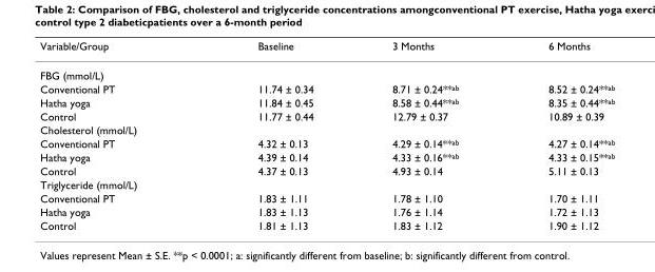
<table><thead><tr><td>Variable/Group</td><td>Baseline</td><td>3 Months</td><td>6 Months</td></tr></thead><tbody><tr><td colspan="4">FBG (mmol/L)</td></tr><tr><td>Conventional PT</td><td>11.74 ± 0.34</td><td>8.71 ± 0.24**<sup>ab</sup></td><td>8.52 ± 0.24**<sup>ab</sup></td></tr><tr><td>Hatha yoga</td><td>11.84 ± 0.45</td><td>8.58 ± 0.44**<sup>ab</sup></td><td>8.35 ± 0.44**<sup>ab</sup></td></tr><tr><td>Control</td><td>11.77 ± 0.44</td><td>12.79 ± 0.37</td><td>10.89 ± 0.39</td></tr><tr><td colspan="4">Cholesterol (mmol/L)</td></tr><tr><td>Conventional PT</td><td>4.32 ± 0.13</td><td>4.29 ± 0.14**<sup>ab</sup></td><td>4.27 ± 0.14**<sup>ab</sup></td></tr><tr><td>Hatha yoga</td><td>4.39 ± 0.14</td><td>4.33 ± 0.16**<sup>ab</sup></td><td>4.33 ± 0.15**<sup>ab</sup></td></tr><tr><td>Control</td><td>4.37 ± 0.13</td><td>4.93 ± 0.14</td><td>5.11 ± 0.13</td></tr><tr><td colspan="4">Triglyceride (mmol/L)</td></tr><tr><td>Conventional PT</td><td>1.83 ± 1.11</td><td>1.78 ± 1.10</td><td>1.70 ± 1.11</td></tr><tr><td>Hatha yoga</td><td>1.83 ± 1.13</td><td>1.76 ± 1.14</td><td>1.72 ± 1.13</td></tr><tr><td>Control</td><td>1.81 ± 1.13</td><td>1.83 ± 1.12</td><td>1.90 ± 1.12</td></tr></tbody></table>